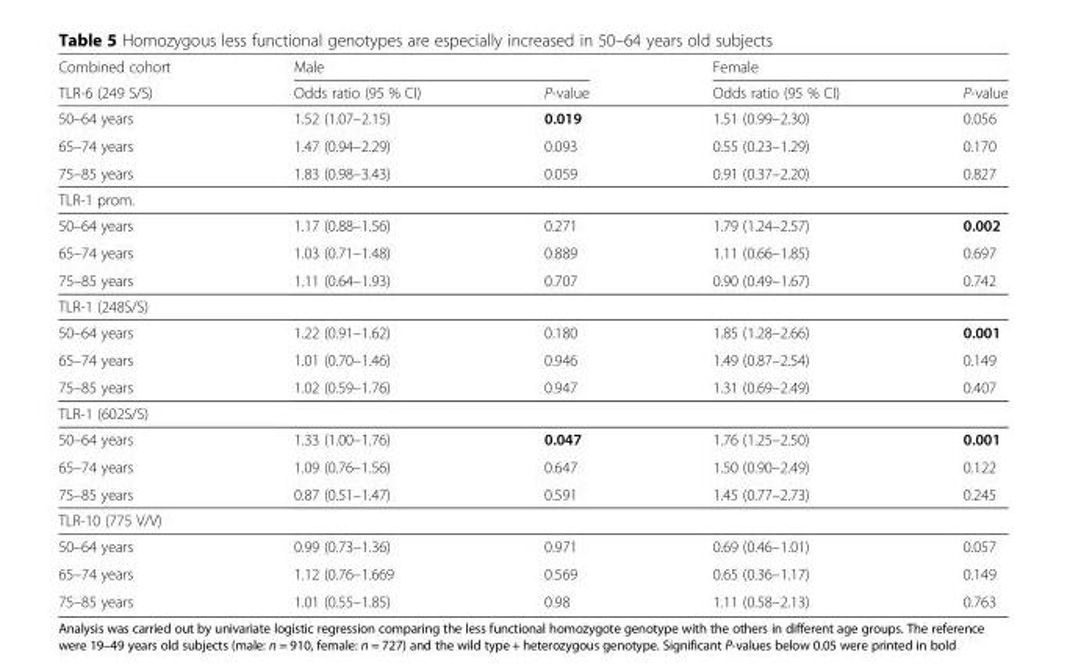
<table><thead><tr><td rowspan="2">Combined cohort TLR-6 (249 S/S)</td><td colspan="2">Male</td><td colspan="2">Female</td></tr><tr><td>Odds ratio (95 % CI)</td><td>P-value</td><td>Odds ratio (95 % CI)</td><td>P-value</td></tr></thead><tbody><tr><td>50–64 years</td><td>1.52 (1.07–2.15)</td><td>0.019</td><td>1.51 (0.99–2.30)</td><td>0.056</td></tr><tr><td>65–74 years</td><td>1.47 (0.94–2.29)</td><td>0.093</td><td>0.55 (0.23–1.29)</td><td>0.170</td></tr><tr><td>75–85 years</td><td>1.83 (0.98–3.43)</td><td>0.059</td><td>0.91 (0.37–2.20)</td><td>0.827</td></tr><tr><td colspan="5">TLR-1 prom.</td></tr><tr><td>50–64 years</td><td>1.17 (0.88–1.56)</td><td>0.271</td><td>1.79 (1.24–2.57)</td><td>0.002</td></tr><tr><td>65–74 years</td><td>1.03 (0.71–1.48)</td><td>0.889</td><td>1.11 (0.66–1.85)</td><td>0.697</td></tr><tr><td>75–85 years</td><td>1.11 (0.64–1.93)</td><td>0.707</td><td>0.90 (0.49–1.67)</td><td>0.742</td></tr><tr><td colspan="5">TLR-1 (248S/S)</td></tr><tr><td>50–64 years</td><td>1.22 (0.91–1.62)</td><td>0.180</td><td>1.85 (1.28–2.66)</td><td>0.001</td></tr><tr><td>65–74 years</td><td>1.01 (0.70–1.46)</td><td>0.946</td><td>1.49 (0.87–2.54)</td><td>0.149</td></tr><tr><td>75–85 years</td><td>1.02 (0.59–1.76)</td><td>0.947</td><td>1.31 (0.69–2.49)</td><td>0.407</td></tr><tr><td colspan="5">TLR-1 (602S/S)</td></tr><tr><td>50–64 years</td><td>1.33 (1.00–1.76)</td><td>0.047</td><td>1.76 (1.25–2.50)</td><td>0.001</td></tr><tr><td>65–74 years</td><td>1.09 (0.76–1.56)</td><td>0.647</td><td>1.50 (0.90–2.49)</td><td>0.122</td></tr><tr><td>75–85 years</td><td>0.87 (0.51–1.47)</td><td>0.591</td><td>1.45 (0.77–2.73)</td><td>0.245</td></tr><tr><td colspan="5">TLR-10 (775 V/V)</td></tr><tr><td>50–64 years</td><td>0.99 (0.73–1.36)</td><td>0.971</td><td>0.69 (0.46–1.01)</td><td>0.057</td></tr><tr><td>65–74 years</td><td>1.12 (0.76–1.669</td><td>0.569</td><td>0.65 (0.36–1.17)</td><td>0.149</td></tr><tr><td>75–85 years</td><td>1.01 (0.55–1.85)</td><td>0.98</td><td>1.11 (0.58–2.13)</td><td>0.763</td></tr></tbody></table>